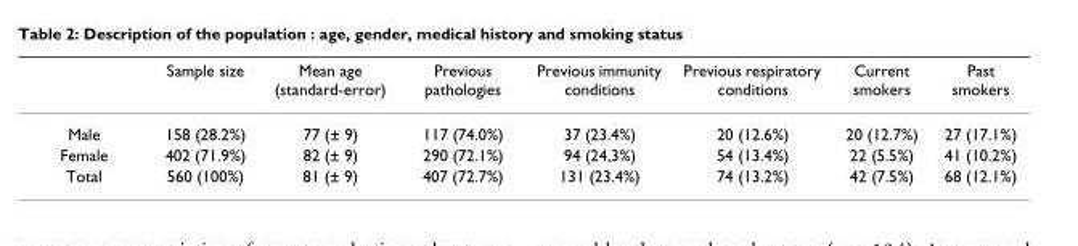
<table><thead><tr><td></td><td>Sample size</td><td>Mean age (standard-error)</td><td>Previous pathologies</td><td>Previous immunity conditions</td><td>Previous respiratory conditions</td><td>Current smokers</td><td>Past smokers</td></tr></thead><tbody><tr><td>Male</td><td>158 (28.2%)</td><td>77 (± 9)</td><td>117 (74.0%)</td><td>37 (23.4%)</td><td>20 (12.6%)</td><td>20 (12.7%)</td><td>27 (17.1%)</td></tr><tr><td>Female</td><td>402 (71.9%)</td><td>82 (± 9)</td><td>290 (72.1%)</td><td>94 (24,3%)</td><td>54 (13.4%)</td><td>22 (5.5%)</td><td>41 (10.2%)</td></tr><tr><td>Total</td><td>560 (100%)</td><td>81 (± 9)</td><td>407 (72.7%)</td><td>131 (23.4%)</td><td>74 (13.2%)</td><td>42 (7.5%)</td><td>68 (12.1%)</td></tr></tbody></table>